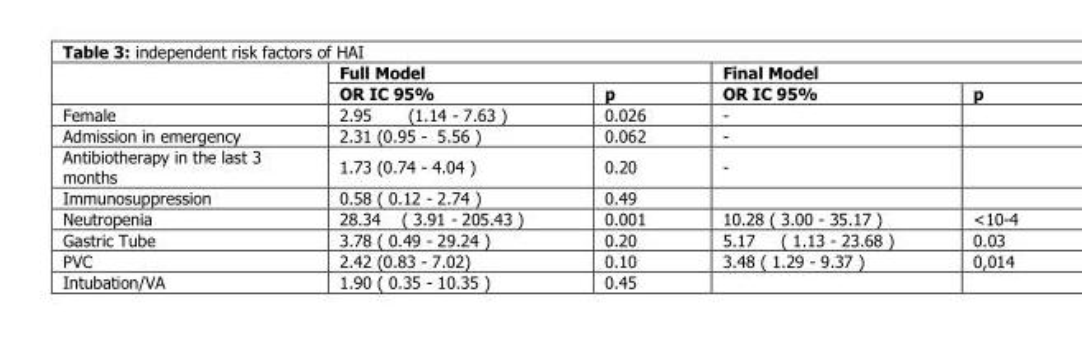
<table><thead><tr><td rowspan="2"></td><td colspan="2">Full Model</td><td colspan="2">Final Model</td></tr><tr><td>OR IC 95%</td><td>p</td><td>OR IC 95%</td><td>p</td></tr></thead><tbody><tr><td>Female</td><td>2.95 (1.14 - 7.63 )</td><td>0.026</td><td>-</td><td></td></tr><tr><td>Admission in emergency</td><td>2.31 (0.95 - 5.56 )</td><td>0.062</td><td>-</td><td></td></tr><tr><td>Antibiotherapy in the last 3 months</td><td>1.73 (0.74 - 4.04 )</td><td>0.20</td><td>-</td><td></td></tr><tr><td>Immunosuppression</td><td>0.58 ( 0.12 - 2.74 )</td><td>0.49</td><td></td><td></td></tr><tr><td>Neutropenia</td><td>28.34 ( 3.91 - 205.43 )</td><td>0.001</td><td>10.28 ( 3.00 - 35.17 )</td><td>&lt;10-4</td></tr><tr><td>Gastric Tube</td><td>3.78 ( 0.49 - 29.24 )</td><td>0.20</td><td>5.17 ( 1.13 - 23.68 )</td><td>0.03</td></tr><tr><td>PVC</td><td>2.42 (0.83 - 7.02)</td><td>0.10</td><td>3.48 ( 1.29 - 9.37 )</td><td>0,014</td></tr><tr><td>Intubation/VA</td><td>1.90 ( 0.35 - 10.35 )</td><td>0.45</td><td></td><td></td></tr></tbody></table>